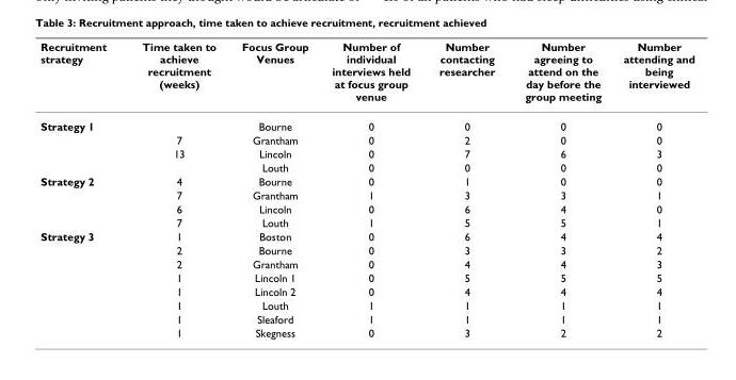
<table><thead><tr><td>Recruitment strategy</td><td>Time taken to achieve recruitment (weeks)</td><td>Focus Group Venues</td><td>Number of individual interviews held at focus group venue</td><td>Number contacting researcher</td><td>Number agreeing to attend on the day before the group meeting</td><td>Number attending and being interviewed</td></tr></thead><tbody><tr><td rowspan="4">Strategy 1</td><td></td><td>Bourne</td><td>0</td><td>0</td><td>0</td><td>0</td></tr><tr><td>7</td><td>Grantham</td><td>0</td><td>2</td><td>0</td><td>0</td></tr><tr><td>13</td><td>Lincoln</td><td>0</td><td>7</td><td>6</td><td>3</td></tr><tr><td></td><td>Louth</td><td>0</td><td>0</td><td>0</td><td>0</td></tr><tr><td rowspan="4">Strategy 2</td><td>4</td><td>Bourne</td><td>0</td><td>1</td><td>0</td><td>0</td></tr><tr><td>7</td><td>Grantham</td><td>1</td><td>3</td><td>3</td><td>1</td></tr><tr><td>6</td><td>Lincoln</td><td>0</td><td>6</td><td>4</td><td>0</td></tr><tr><td>7</td><td>Louth</td><td>1</td><td>5</td><td>5</td><td>1</td></tr><tr><td rowspan="8">Strategy 3</td><td>1</td><td>Boston</td><td>0</td><td>6</td><td>4</td><td>4</td></tr><tr><td>2</td><td>Bourne</td><td>0</td><td>3</td><td>3</td><td>2</td></tr><tr><td>2</td><td>Grantham</td><td>0</td><td>4</td><td>4</td><td>3</td></tr><tr><td>1</td><td>Lincoln 1</td><td>0</td><td>5</td><td>5</td><td>5</td></tr><tr><td>1</td><td>Lincoln 2</td><td>0</td><td>4</td><td>4</td><td>4</td></tr><tr><td>1</td><td>Louth</td><td>1</td><td>1</td><td>1</td><td>1</td></tr><tr><td>1</td><td>Sleaford</td><td>1</td><td>1</td><td>1</td><td>1</td></tr><tr><td>1</td><td>Skegness</td><td>0</td><td>3</td><td>2</td><td>2</td></tr></tbody></table>